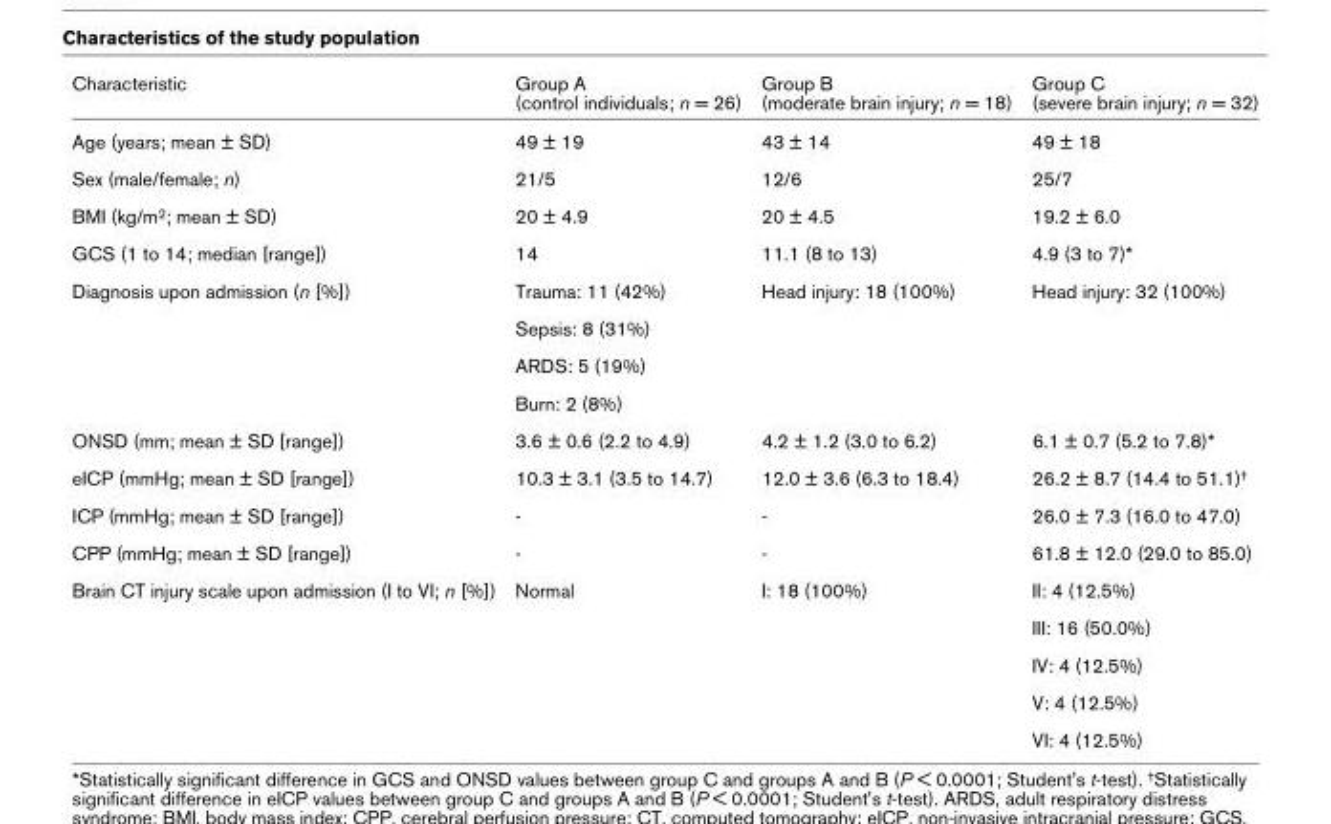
<table><thead><tr><td>Characteristic</td><td>Group A (control individuals; n = 26)</td><td>Group B (moderate brain injury; n = 18)</td><td>Group C (severe brain injury; n = 32)</td></tr></thead><tbody><tr><td>Age (years; mean ± SD)</td><td>49 ± 19</td><td>43 ± 14</td><td>49 ± 18</td></tr><tr><td>Sex (male/female; n)</td><td>21/5</td><td>12/6</td><td>25/7</td></tr><tr><td>BMI (kg/m<sup>2</sup>; mean ± SD)</td><td>20 ± 4.9</td><td>20 ± 4.5</td><td>19.2 ± 6.0</td></tr><tr><td>GCS (1 to 14; median [range])</td><td>14</td><td>11.1 (8 to 13)</td><td>4.9 (3 to 7)*</td></tr><tr><td rowspan="4">Diagnosis upon admission (n [%])</td><td>Trauma: 11 (42%)</td><td>Head injury: 18 (100%)</td><td>Head injury: 32 (100%)</td></tr><tr><td>Sepsis: 8 (31%)</td><td></td><td></td></tr><tr><td>ARDS: 5 (19%)</td><td></td><td></td></tr><tr><td>Burn: 2 (8%)</td><td></td><td></td></tr><tr><td>ONSD (mm; mean ± SD [range])</td><td>3.6 ± 0.6 (2.2 to 4.9)</td><td>4.2 ± 1.2 (3.0 to 6.2)</td><td>6.1 ± 0.7 (5.2 to 7.8)*</td></tr><tr><td>eICP (mmHg; mean ± SD [range])</td><td>10.3 ± 3.1 (3.5 to 14.7)</td><td>12.0 ± 3.6 (6.3 to 18.4)</td><td>26.2 ± 8.7 (14.4 to 51.1)<sup>†</sup></td></tr><tr><td>ICP (mmHg; mean ± SD [range])</td><td>-</td><td>-</td><td>26.0 ± 7.3 (16.0 to 47.0)</td></tr><tr><td>CPP (mmHg; mean ± SD [range])</td><td>-</td><td>-</td><td>61.8 ± 12.0 (29.0 to 85.0)</td></tr><tr><td rowspan="5">Brain CT injury scale upon admission (I to VI; n [%])</td><td>Normal</td><td>I: 18 (100%)</td><td>II: 4 (12.5%)</td></tr><tr><td></td><td></td><td>III: 16 (50.0%)</td></tr><tr><td></td><td></td><td>IV: 4 (12.5%)</td></tr><tr><td></td><td></td><td>V: 4 (12.5%)</td></tr><tr><td></td><td></td><td>VI: 4 (12.5%)</td></tr></tbody></table>